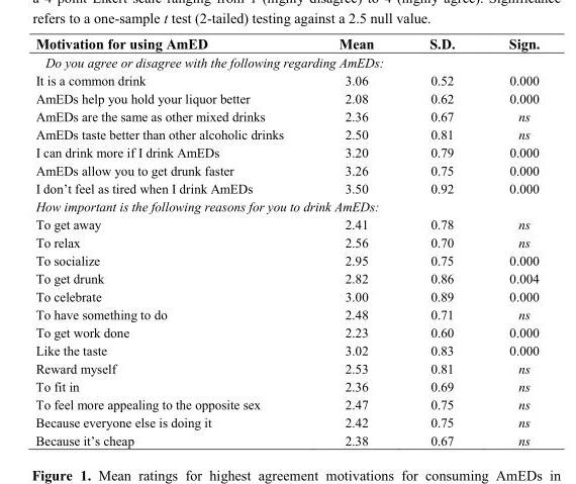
<table><thead><tr><td>Motivation for using AmED</td><td>Mean</td><td>S.D.</td><td>Sign.</td></tr></thead><tbody><tr><td colspan="4">Do you agree or disagree with the following regarding AmEDs:</td></tr><tr><td>It is a common drink</td><td>3.06</td><td>0.52</td><td>0.000</td></tr><tr><td>AmEDs help you hold your liquor better</td><td>2.08</td><td>0.62</td><td>0.000</td></tr><tr><td>AmEDs are the same as other mixed drinks</td><td>2.36</td><td>0.67</td><td>ns</td></tr><tr><td>AmEDs taste better than other alcoholic drinks</td><td>2.50</td><td>0.81</td><td>ns</td></tr><tr><td>I can drink more if I drink AmEDs</td><td>3.20</td><td>0.79</td><td>0.000</td></tr><tr><td>AmEDs allow you to get drunk faster</td><td>3.26</td><td>0.75</td><td>0.000</td></tr><tr><td>I don’t feel as tired when I drink AmEDs</td><td>3.50</td><td>0.92</td><td>0.000</td></tr><tr><td colspan="4">How important is the following reasons for you to drink AmEDs:</td></tr><tr><td>To get away</td><td>2.41</td><td>0.78</td><td>ns</td></tr><tr><td>To relax</td><td>2.56</td><td>0.70</td><td>ns</td></tr><tr><td>To socialize</td><td>2.95</td><td>0.75</td><td>0.000</td></tr><tr><td>To get drunk</td><td>2.82</td><td>0.86</td><td>0.004</td></tr><tr><td>To celebrate</td><td>3.00</td><td>0.89</td><td>0.000</td></tr><tr><td>To have something to do</td><td>2.48</td><td>0.71</td><td>ns</td></tr><tr><td>To get work done</td><td>2.23</td><td>0.60</td><td>0.000</td></tr><tr><td>Like the taste</td><td>3.02</td><td>0.83</td><td>0.000</td></tr><tr><td>Reward myself</td><td>2.53</td><td>0.81</td><td>ns</td></tr><tr><td>To fit in</td><td>2.36</td><td>0.69</td><td>ns</td></tr><tr><td>To feel more appealing to the opposite sex</td><td>2.47</td><td>0.75</td><td>ns</td></tr><tr><td>Because everyone else is doing it</td><td>2.42</td><td>0.75</td><td>ns</td></tr><tr><td>Because it’s cheap</td><td>2.38</td><td>0.67</td><td>ns</td></tr></tbody></table>